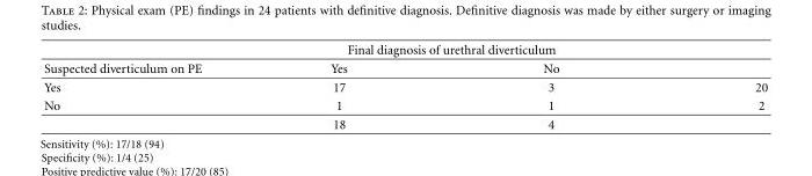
<table><thead><tr><td rowspan="2">Suspected diverticulum on PE</td><td colspan="2">Final diagnosis of urethral diverticulum</td><td rowspan="2"></td></tr><tr><td>Yes</td><td>No</td></tr></thead><tbody><tr><td>Yes</td><td>17</td><td>3</td><td>20</td></tr><tr><td rowspan="2">No</td><td>1</td><td>1</td><td>2</td></tr><tr><td>18</td><td>4</td><td></td></tr></tbody></table>